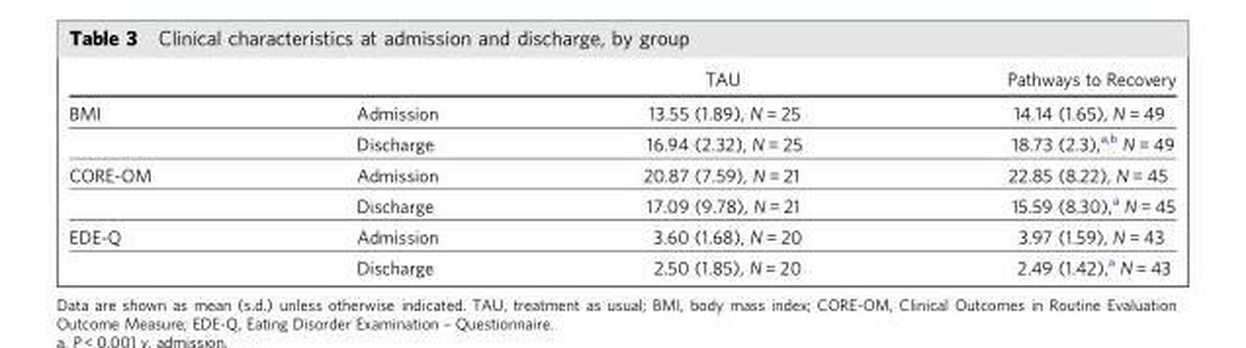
<table><thead><tr><td></td><td></td><td>TAU</td><td>Pathways to Recovery</td></tr></thead><tbody><tr><td rowspan="2">BMI</td><td>Admission</td><td>13.55 (1.89), N = 25</td><td>14.14 (1.65), N = 49</td></tr><tr><td>Discharge</td><td>16.94 (2.32), N = 25</td><td>18.73 (2.3),<sup>a,b</sup> N = 49</td></tr><tr><td rowspan="2">CORE-OM</td><td>Admission</td><td>20.87 (7.59), N = 21</td><td>22.85 (8.22), N = 45</td></tr><tr><td>Discharge</td><td>17.09 (9.78), N = 21</td><td>15.59 (8.30),<sup>a</sup> N = 45</td></tr><tr><td rowspan="2">EDE-Q</td><td>Admission</td><td>3.60 (1.68), N = 20</td><td>3.97 (1.59), N = 43</td></tr><tr><td>Discharge</td><td>2.50 (1.85), N = 20</td><td>2.49 (1.42),<sup>a</sup> N = 43</td></tr></tbody></table>